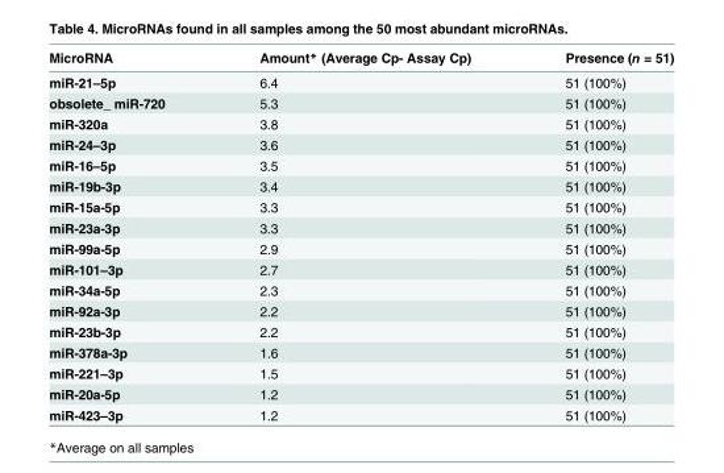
<table><thead><tr><td>MicroRNA</td><td>Amount* (Average Cp- Assay Cp)</td><td>Presence (n = 51)</td></tr></thead><tbody><tr><td>miR-21–5p</td><td>6.4</td><td>51 (100%)</td></tr><tr><td>obsolete_ miR-720</td><td>5.3</td><td>51 (100%)</td></tr><tr><td>miR-320a</td><td>3.8</td><td>51 (100%)</td></tr><tr><td>miR-24–3p</td><td>3.6</td><td>51 (100%)</td></tr><tr><td>miR-16–5p</td><td>3.5</td><td>51 (100%)</td></tr><tr><td>miR-19b-3p</td><td>3.4</td><td>51 (100%)</td></tr><tr><td>miR-15a-5p</td><td>3.3</td><td>51 (100%)</td></tr><tr><td>miR-23a-3p</td><td>3.3</td><td>51 (100%)</td></tr><tr><td>miR-99a-5p</td><td>2.9</td><td>51 (100%)</td></tr><tr><td>miR-101–3p</td><td>2.7</td><td>51 (100%)</td></tr><tr><td>miR-34a-5p</td><td>2.3</td><td>51 (100%)</td></tr><tr><td>miR-92a-3p</td><td>2.2</td><td>51 (100%)</td></tr><tr><td>miR-23b-3p</td><td>2.2</td><td>51 (100%)</td></tr><tr><td>miR-378a-3p</td><td>1.6</td><td>51 (100%)</td></tr><tr><td>miR-221–3p</td><td>1.5</td><td>51 (100%)</td></tr><tr><td>miR-20a-5p</td><td>1.2</td><td>51 (100%)</td></tr><tr><td>miR-423–3p</td><td>1.2</td><td>51 (100%)</td></tr></tbody></table>